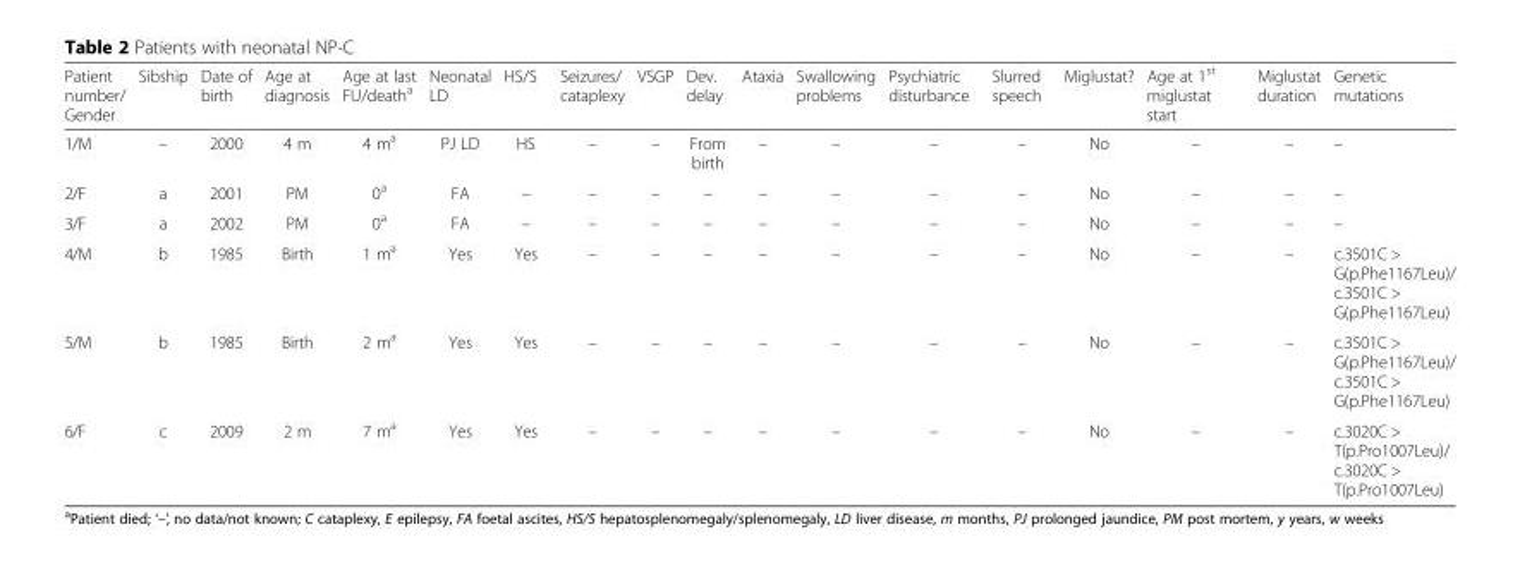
<table><thead><tr><td>Patient number/ Gender</td><td>Sibship</td><td>Date of birth</td><td>Age at diagnosis</td><td>Age at last FU/death<sup>a</sup></td><td>Neonatal LD</td><td>HS/S</td><td>Seizures/ cataplexy</td><td>VSGP</td><td>Dev. delay</td><td>Ataxia</td><td>Swallowing problems</td><td>Psychiatric disturbance</td><td>Slurred speech</td><td>Miglustat?</td><td>Age at 1<sup>st</sup> miglustat start</td><td>Miglustat duration</td><td>Genetic mutations</td></tr></thead><tbody><tr><td>1/M</td><td>–</td><td>2000</td><td>4 m</td><td>4 m<sup>a</sup></td><td>PJ LD</td><td>HS</td><td>–</td><td>–</td><td>From birth</td><td>–</td><td>–</td><td>–</td><td>–</td><td>No</td><td>–</td><td>–</td><td>–</td></tr><tr><td>2/F</td><td>a</td><td>2001</td><td>PM</td><td>0<sup>a</sup></td><td>FA</td><td>–</td><td>–</td><td>–</td><td>–</td><td>–</td><td>–</td><td>–</td><td>–</td><td>No</td><td>–</td><td>–</td><td>–</td></tr><tr><td>3/F</td><td>a</td><td>2002</td><td>PM</td><td>0<sup>a</sup></td><td>FA</td><td>–</td><td>–</td><td>–</td><td>–</td><td>–</td><td>–</td><td>–</td><td>–</td><td>No</td><td>–</td><td>–</td><td>–</td></tr><tr><td>4/M</td><td>b</td><td>1985</td><td>Birth</td><td>1 m<sup>a</sup></td><td>Yes</td><td>Yes</td><td>–</td><td>–</td><td>–</td><td>–</td><td>–</td><td>–</td><td>–</td><td>No</td><td>–</td><td>–</td><td>c.3501C &gt; G(p.Phe1167Leu)/ c.3501C &gt; G(p.Phe1167Leu)</td></tr><tr><td>5/M</td><td>b</td><td>1985</td><td>Birth</td><td>2 m<sup>a</sup></td><td>Yes</td><td>Yes</td><td>–</td><td>–</td><td>–</td><td>–</td><td>–</td><td>–</td><td>–</td><td>No</td><td>–</td><td>–</td><td>c.3501C &gt; G(p.Phe1167Leu)/ c.3501C &gt; G(p.Phe1167Leu)</td></tr><tr><td>6/F</td><td>c</td><td>2009</td><td>2 m</td><td>7 m<sup>a</sup></td><td>Yes</td><td>Yes</td><td>–</td><td>–</td><td>–</td><td>–</td><td>–</td><td>–</td><td>–</td><td>No</td><td>–</td><td>–</td><td>c.3020C &gt; T(p.Pro1007Leu)/ c.3020C &gt; T(p.Pro1007Leu)</td></tr></tbody></table>